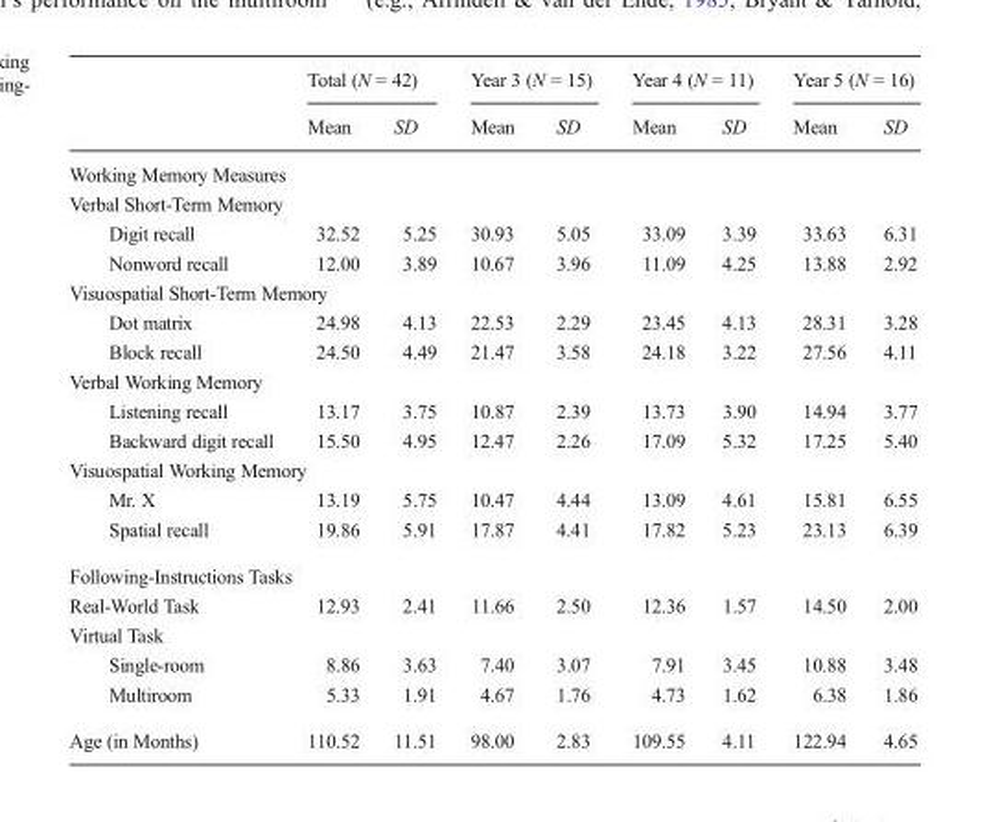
<table><thead><tr><td rowspan="2"></td><td colspan="2">Total (N = 42)</td><td colspan="2">Year 3 (N = 15)</td><td colspan="2">Year 4 (N = 11)</td><td colspan="2">Year 5 (N = 16)</td></tr><tr><td>Mean</td><td>SD</td><td>Mean</td><td>SD</td><td>Mean</td><td>SD</td><td>Mean</td><td>SD</td></tr></thead><tbody><tr><td colspan="9">Working Memory Measures</td></tr><tr><td colspan="9">Verbal Short-Term Memory</td></tr><tr><td>Digit recall</td><td>32.52</td><td>5.25</td><td>30.93</td><td>5.05</td><td>33.09</td><td>3.39</td><td>33.63</td><td>6.31</td></tr><tr><td>Nonword recall</td><td>12.00</td><td>3.89</td><td>10.67</td><td>3.96</td><td>11.09</td><td>4.25</td><td>13.88</td><td>2.92</td></tr><tr><td colspan="9">Visuospatial Short-Term Memory</td></tr><tr><td>Dot matrix</td><td>24.98</td><td>4.13</td><td>22.53</td><td>2.29</td><td>23.45</td><td>4.13</td><td>28.31</td><td>3.28</td></tr><tr><td>Block recall</td><td>24.50</td><td>4.49</td><td>21.47</td><td>3.58</td><td>24.18</td><td>3.22</td><td>27.56</td><td>4.11</td></tr><tr><td colspan="9">Verbal Working Memory</td></tr><tr><td>Listening recall</td><td>13.17</td><td>3.75</td><td>10.87</td><td>2.39</td><td>13.73</td><td>3.90</td><td>14.94</td><td>3.77</td></tr><tr><td>Backward digit recall</td><td>15.50</td><td>4.95</td><td>12.47</td><td>2.26</td><td>17.09</td><td>5.32</td><td>17.25</td><td>5.40</td></tr><tr><td colspan="9">Visuospatial Working Memory</td></tr><tr><td>Mr. X</td><td>13.19</td><td>5.75</td><td>10.47</td><td>4.44</td><td>13.09</td><td>4.61</td><td>15.81</td><td>6.55</td></tr><tr><td>Spatial recall</td><td>19.86</td><td>5.91</td><td>17.87</td><td>4.41</td><td>17.82</td><td>5.23</td><td>23.13</td><td>6.39</td></tr><tr><td colspan="9">Following-Instructions Tasks</td></tr><tr><td>Real-World Task</td><td>12.93</td><td>2.41</td><td>11.66</td><td>2.50</td><td>12.36</td><td>1.57</td><td>14.50</td><td>2.00</td></tr><tr><td colspan="9">Virtual Task</td></tr><tr><td>Single-room</td><td>8.86</td><td>3.63</td><td>7.40</td><td>3.07</td><td>7.91</td><td>3.45</td><td>10.88</td><td>3.48</td></tr><tr><td>Multiroom</td><td>5.33</td><td>1.91</td><td>4.67</td><td>1.76</td><td>4.73</td><td>1.62</td><td>6.38</td><td>1.86</td></tr><tr><td>Age (in Months)</td><td>110.52</td><td>11.51</td><td>98.00</td><td>2.83</td><td>109.55</td><td>4.11</td><td>122.94</td><td>4.65</td></tr></tbody></table>